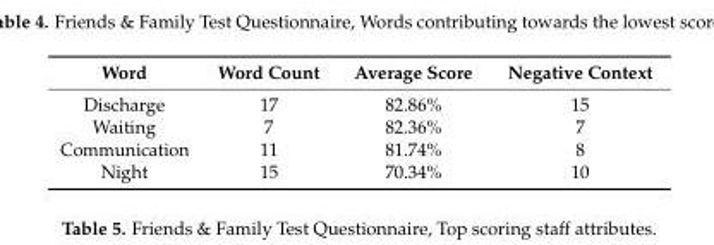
<table><thead><tr><td>Word</td><td>Word Count</td><td>Average Score</td><td>Negative Context</td></tr></thead><tbody><tr><td>Discharge</td><td>17</td><td>82.86%</td><td>15</td></tr><tr><td>Waiting</td><td>7</td><td>82.36%</td><td>7</td></tr><tr><td>Communication</td><td>11</td><td>81.74%</td><td>8</td></tr><tr><td>Night</td><td>15</td><td>70.34%</td><td>10</td></tr></tbody></table>